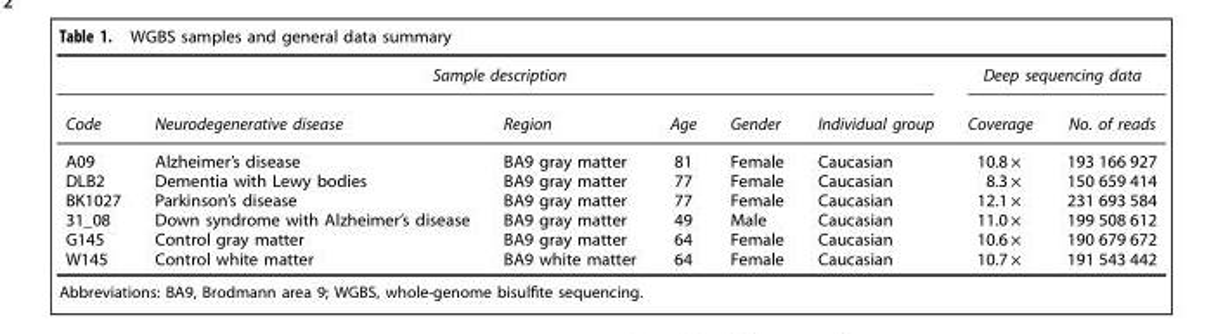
<table><thead><tr><td colspan="6">Sample description</td><td colspan="2">Deep sequencing data</td></tr><tr><td>Code</td><td>Neurodegenerative disease</td><td>Region</td><td>Age</td><td>Gender</td><td>Individual group</td><td>Coverage</td><td>No. of reads</td></tr></thead><tbody><tr><td>A09</td><td>Alzheimer’s disease</td><td>BA9 gray matter</td><td>81</td><td>Female</td><td>Caucasian</td><td>10.8 ×</td><td>193 166 927</td></tr><tr><td>DLB2</td><td>Dementia with Lewy bodies</td><td>BA9 gray matter</td><td>77</td><td>Female</td><td>Caucasian</td><td>8.3 ×</td><td>150 659 414</td></tr><tr><td>BK1027</td><td>Parkinson’s disease</td><td>BA9 gray matter</td><td>77</td><td>Female</td><td>Caucasian</td><td>12.1 ×</td><td>231 693 584</td></tr><tr><td>31_08</td><td>Down syndrome with Alzheimer’s disease</td><td>BA9 gray matter</td><td>49</td><td>Male</td><td>Caucasian</td><td>11.0 ×</td><td>199 508 612</td></tr><tr><td>G145</td><td>Control gray matter</td><td>BA9 gray matter</td><td>64</td><td>Female</td><td>Caucasian</td><td>10.6 ×</td><td>190 679 672</td></tr><tr><td>W145</td><td>Control white matter</td><td>BA9 white matter</td><td>64</td><td>Female</td><td>Caucasian</td><td>10.7 ×</td><td>191 543 442</td></tr></tbody></table>